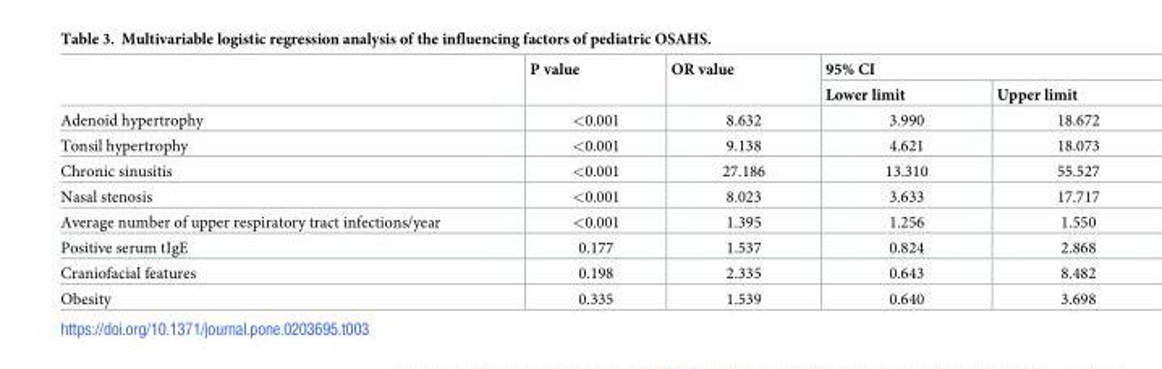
<table><thead><tr><td rowspan="2"></td><td rowspan="2">P value</td><td rowspan="2">OR value</td><td colspan="2">95% CI</td></tr><tr><td>Lower limit</td><td>Upper limit</td></tr></thead><tbody><tr><td>Adenoid hypertrophy</td><td>&lt;0.001</td><td>8.632</td><td>3.990</td><td>18.672</td></tr><tr><td>Tonsil hypertrophy</td><td>&lt;0.001</td><td>9.138</td><td>4.621</td><td>18.073</td></tr><tr><td>Chronic sinusitis</td><td>&lt;0.001</td><td>27.186</td><td>13.310</td><td>55.527</td></tr><tr><td>Nasal stenosis</td><td>&lt;0.001</td><td>8.023</td><td>3.633</td><td>17.717</td></tr><tr><td>Average number of upper respiratory tract infections/year</td><td>&lt;0.001</td><td>1.395</td><td>1.256</td><td>1.550</td></tr><tr><td>Positive serum tIgE</td><td>0.177</td><td>1.537</td><td>0.824</td><td>2.868</td></tr><tr><td>Craniofacial features</td><td>0.198</td><td>2.335</td><td>0.643</td><td>8.482</td></tr><tr><td>Obesity</td><td>0.335</td><td>1.539</td><td>0.640</td><td>3.698</td></tr></tbody></table>